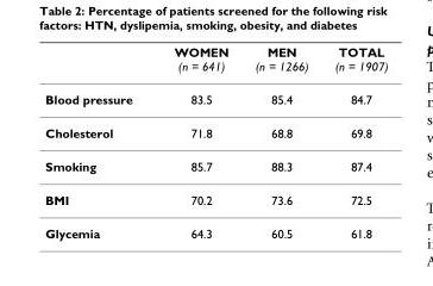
<table><thead><tr><td></td><td>WOMEN (n = 641)</td><td>MEN (n = 1266)</td><td>TOTAL (n = 1907)</td></tr></thead><tbody><tr><td>Blood pressure</td><td>83.5</td><td>85.4</td><td>84.7</td></tr><tr><td>Cholesterol</td><td>71.8</td><td>68.8</td><td>69.8</td></tr><tr><td>Smoking</td><td>85.7</td><td>88.3</td><td>87.4</td></tr><tr><td>BMI</td><td>70.2</td><td>73.6</td><td>72.5</td></tr><tr><td>Glycemia</td><td>64.3</td><td>60.5</td><td>61.8</td></tr></tbody></table>